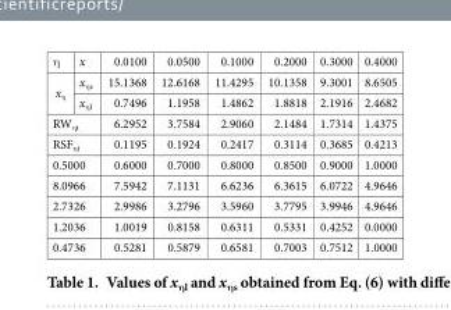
<table><tbody><tr><td>η</td><td>x</td><td>0.0100</td><td>0.0500</td><td>0.1000</td><td>0.2000</td><td>0.3000</td><td>0.4000</td></tr><tr><td rowspan="2">x<sub>η</sub></td><td>x<sub>ηs</sub></td><td>15.1368</td><td>12.6168</td><td>11.4295</td><td>10.1358</td><td>9.3001</td><td>8.6505</td></tr><tr><td>x<sub>ηl</sub></td><td>0.7496</td><td>1.1958</td><td>1.4862</td><td>1.8818</td><td>2.1916</td><td>2.4682</td></tr><tr><td colspan="2">RW<sub>ηt</sub></td><td>6.2952</td><td>3.7584</td><td>2.9060</td><td>2.1484</td><td>1.7314</td><td>1.4375</td></tr><tr><td colspan="2">RSF<sub>ηt</sub></td><td>0.1195</td><td>0.1924</td><td>0.2417</td><td>0.3114</td><td>0.3685</td><td>0.4213</td></tr><tr><td colspan="2">0.5000</td><td>0.6000</td><td>0.7000</td><td>0.8000</td><td>0.8500</td><td>0.9000</td><td>1.0000</td></tr><tr><td colspan="2">8.0966</td><td>7.5942</td><td>7.1131</td><td>6.6236</td><td>6.3615</td><td>6.0722</td><td>4.9646</td></tr><tr><td colspan="2">2.7326</td><td>2.9986</td><td>3.2796</td><td>3.5960</td><td>3.7795</td><td>3.9946</td><td>4.9646</td></tr><tr><td colspan="2">1.2036</td><td>1.0019</td><td>0.8158</td><td>0.6311</td><td>0.5331</td><td>0.4252</td><td>0.0000</td></tr><tr><td colspan="2">0.4736</td><td>0.5281</td><td>0.5879</td><td>0.6581</td><td>0.7003</td><td>0.7512</td><td>1.0000</td></tr></tbody></table>